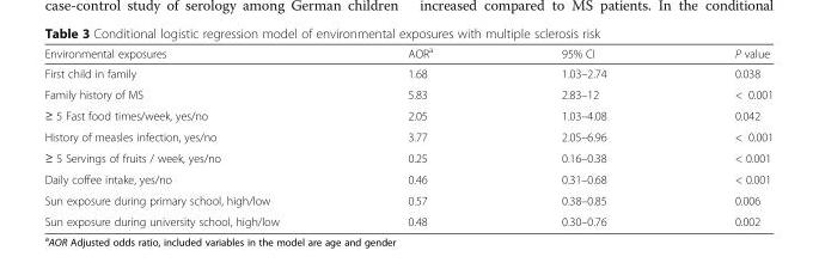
<table><thead><tr><td>Environmental exposures</td><td>AOR<sup>a</sup></td><td>95% CI</td><td>P value</td></tr></thead><tbody><tr><td>First child in family</td><td>1.68</td><td>1.03–2.74</td><td>0.038</td></tr><tr><td>Family history of MS</td><td>5.83</td><td>2.83–12</td><td>&lt; 0.001</td></tr><tr><td>≥ 5 Fast food times/week, yes/no</td><td>2.05</td><td>1.03–4.08</td><td>0.042</td></tr><tr><td>History of measles infection, yes/no</td><td>3.77</td><td>2.05–6.96</td><td>&lt; 0.001</td></tr><tr><td>≥ 5 Servings of fruits / week, yes/no</td><td>0.25</td><td>0.16–0.38</td><td>&lt; 0.001</td></tr><tr><td>Daily coffee intake, yes/no</td><td>0.46</td><td>0.31–0.68</td><td>&lt; 0.001</td></tr><tr><td>Sun exposure during primary school, high/low</td><td>0.57</td><td>0.38–0.85</td><td>0.006</td></tr><tr><td>Sun exposure during university school, high/low</td><td>0.48</td><td>0.30–0.76</td><td>0.002</td></tr></tbody></table>